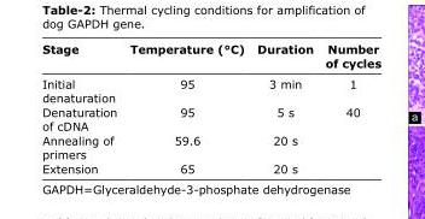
<table><thead><tr><td>Stage</td><td>Temperature (°C)</td><td>Duration</td><td>Number of cycles</td></tr></thead><tbody><tr><td>Initial denaturation</td><td>95</td><td>3 min</td><td>1</td></tr><tr><td>Denaturation of cDNA</td><td>95</td><td>5 s</td><td>40</td></tr><tr><td>Annealing of primers</td><td>59.6</td><td>20 s</td><td></td></tr><tr><td>Extension</td><td>65</td><td>20 s</td><td></td></tr></tbody></table>